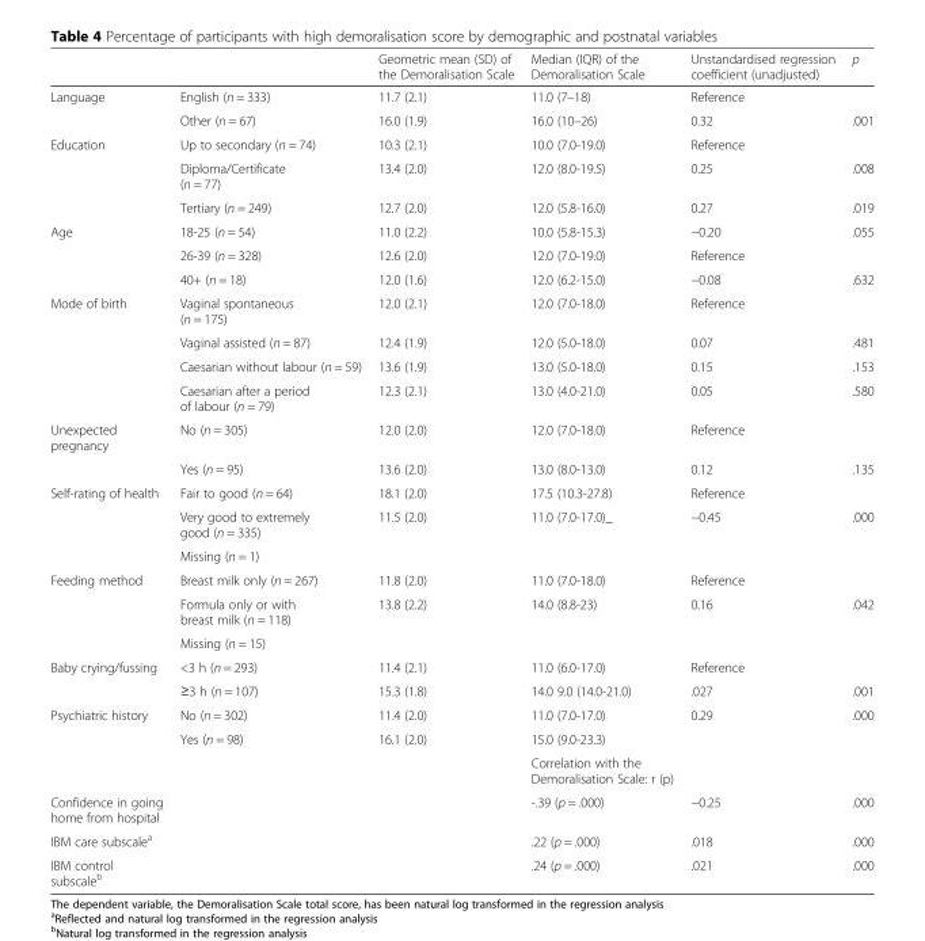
<table><thead><tr><td></td><td></td><td>Geometric mean (SD) of the Demoralisation Scale</td><td>Median (IQR) of the Demoralisation Scale</td><td>Unstandardised regression coefficient (unadjusted)</td><td>p</td></tr></thead><tbody><tr><td rowspan="2">Language</td><td>English (n = 333)</td><td>11.7 (2.1)</td><td>11.0 (7–18)</td><td>Reference</td><td></td></tr><tr><td>Other (n = 67)</td><td>16.0 (1.9)</td><td>16.0 (10–26)</td><td>0.32</td><td>.001</td></tr><tr><td rowspan="3">Education</td><td>Up to secondary (n = 74)</td><td>10.3 (2.1)</td><td>10.0 (7.0-19.0)</td><td>Reference</td><td></td></tr><tr><td>Diploma/Certificate (n = 77)</td><td>13.4 (2.0)</td><td>12.0 (8.0-19.5)</td><td>0.25</td><td>.008</td></tr><tr><td>Tertiary (n = 249)</td><td>12.7 (2.0)</td><td>12.0 (5.8-16.0)</td><td>0.27</td><td>.019</td></tr><tr><td rowspan="3">Age</td><td>18-25 (n = 54)</td><td>11.0 (2.2)</td><td>10.0 (5.8-15.3)</td><td>−0.20</td><td>.055</td></tr><tr><td>26-39 (n = 328)</td><td>12.6 (2.0)</td><td>12.0 (7.0-19.0)</td><td>Reference</td><td></td></tr><tr><td>40+ (n = 18)</td><td>12.0 (1.6)</td><td>12.0 (6.2-15.0)</td><td>−0.08</td><td>.632</td></tr><tr><td rowspan="4">Mode of birth</td><td>Vaginal spontaneous (n = 175)</td><td>12.0 (2.1)</td><td>12.0 (7.0-18.0)</td><td>Reference</td><td></td></tr><tr><td>Vaginal assisted (n = 87)</td><td>12.4 (1.9)</td><td>12.0 (5.0-18.0)</td><td>0.07</td><td>.481</td></tr><tr><td>Caesarian without labour (n = 59)</td><td>13.6 (1.9)</td><td>13.0 (5.0-18.0)</td><td>0.15</td><td>.153</td></tr><tr><td>Caesarian after a period of labour (n = 79)</td><td>12.3 (2.1)</td><td>13.0 (4.0-21.0)</td><td>0.05</td><td>.580</td></tr><tr><td rowspan="2">Unexpected pregnancy</td><td>No (n = 305)</td><td>12.0 (2.0)</td><td>12.0 (7.0-18.0)</td><td>Reference</td><td></td></tr><tr><td>Yes (n = 95)</td><td>13.6 (2.0)</td><td>13.0 (8.0-13.0)</td><td>0.12</td><td>.135</td></tr><tr><td rowspan="3">Self-rating of health</td><td>Fair to good (n = 64)</td><td>18.1 (2.0)</td><td>17.5 (10.3-27.8)</td><td>Reference</td><td></td></tr><tr><td>Very good to extremely good (n = 335)</td><td rowspan="2">11.5 (2.0)</td><td rowspan="2">11.0 (7.0-17.0)_</td><td rowspan="2">−0.45</td><td rowspan="2">.000</td></tr><tr><td>Missing (n = 1)</td></tr><tr><td rowspan="3">Feeding method</td><td>Breast milk only (n = 267)</td><td>11.8 (2.0)</td><td>11.0 (7.0-18.0)</td><td>Reference</td><td></td></tr><tr><td>Formula only or with breast milk (n = 118)</td><td rowspan="2">13.8 (2.2)</td><td rowspan="2">14.0 (8.8-23)</td><td rowspan="2">0.16</td><td rowspan="2">.042</td></tr><tr><td>Missing (n = 15)</td></tr><tr><td rowspan="2">Baby crying/fussing</td><td>&lt;3 h (n = 293)</td><td>11.4 (2.1)</td><td>11.0 (6.0-17.0)</td><td>Reference</td><td></td></tr><tr><td>≥3 h (n = 107)</td><td>15.3 (1.8)</td><td>14.0 9.0 (14.0-21.0)</td><td>.027</td><td>.001</td></tr><tr><td rowspan="3">Psychiatric history</td><td>No (n = 302)</td><td>11.4 (2.0)</td><td>11.0 (7.0-17.0)</td><td rowspan="2">0.29</td><td rowspan="2">.000</td></tr><tr><td>Yes (n = 98)</td><td>16.1 (2.0)</td><td>15.0 (9.0-23.3)</td></tr><tr><td></td><td></td><td>Correlation with the Demoralisation Scale: r (p)</td><td></td><td></td></tr><tr><td>Confidence in going home from hospital</td><td></td><td></td><td>-.39 (p = .000)</td><td>−0.25</td><td>.000</td></tr><tr><td>IBM care subscale<sup>a</sup></td><td></td><td></td><td>.22 (p = .000)</td><td>.018</td><td>.000</td></tr><tr><td>IBM control subscale<sup>b</sup></td><td></td><td></td><td>.24 (p = .000)</td><td>.021</td><td>.000</td></tr></tbody></table>